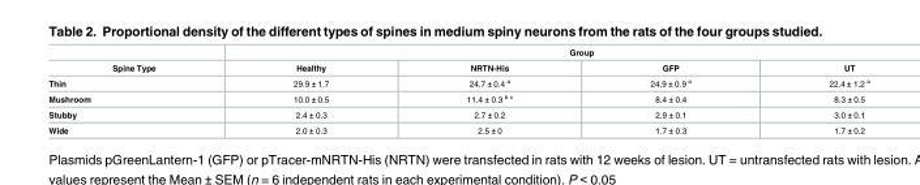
<table><thead><tr><td rowspan="2">Spine Type</td><td colspan="4">Group</td></tr><tr><td>Healthy</td><td>NRTN-His</td><td>GFP</td><td>UT</td></tr></thead><tbody><tr><td>Thin</td><td>29.9 ± 1.7</td><td>24.7 ± 0.4 <sup>a</sup></td><td>24.9 ± 0.9 <sup>a</sup></td><td>22.4 ± 1.2 <sup>a</sup></td></tr><tr><td>Mushroom</td><td>10.0 ± 0.5</td><td>11.4 ± 0.3 <sup>b c</sup></td><td>8.4 ± 0.4</td><td>8.3 ± 0.5</td></tr><tr><td>Stubby</td><td>2.4 ± 0.3</td><td>2.7 ± 0.2</td><td>2.9 ± 0.1</td><td>3.0 ± 0.1</td></tr><tr><td>Wide</td><td>2.0 ± 0.3</td><td>2.5 ± 0</td><td>1.7 ± 0.3</td><td>1.7 ± 0.2</td></tr></tbody></table>